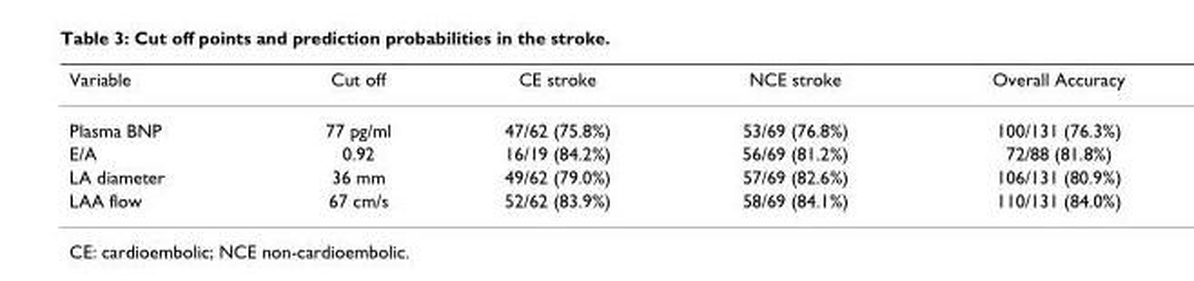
<table><thead><tr><td>Variable</td><td>Cut off</td><td>CE stroke</td><td>NCE stroke</td><td>Overall Accuracy</td></tr></thead><tbody><tr><td>Plasma BNP</td><td>77 pg/ml</td><td>47/62 (75.8%)</td><td>53/69 (76.8%)</td><td>100/131 (76.3%)</td></tr><tr><td>E/A</td><td>0.92</td><td>16/19 (84.2%)</td><td>56/69 (81.2%)</td><td>72/88 (81.8%)</td></tr><tr><td>LA diameter</td><td>36 mm</td><td>49/62 (79.0%)</td><td>57/69 (82.6%)</td><td>106/131 (80.9%)</td></tr><tr><td>LAA flow</td><td>67 cm/s</td><td>52/62 (83.9%)</td><td>58/69 (84.1%)</td><td>110/131 (84.0%)</td></tr></tbody></table>